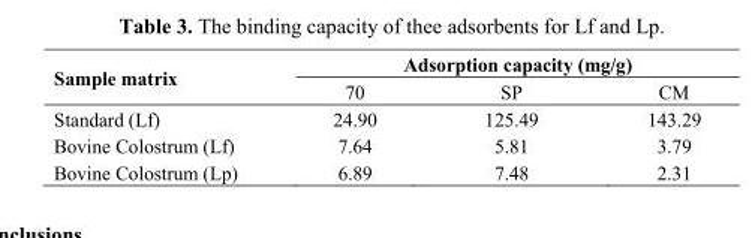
<table><thead><tr><td rowspan="2">Sample matrix</td><td colspan="3">Adsorption capacity (mg/g)</td></tr><tr><td>70</td><td>SP</td><td>CM</td></tr></thead><tbody><tr><td>Standard (Lf)</td><td>24.90</td><td>125.49</td><td>143.29</td></tr><tr><td>Bovine Colostrum (Lf)</td><td>7.64</td><td>5.81</td><td>3.79</td></tr><tr><td>Bovine Colostrum (Lp)</td><td>6.89</td><td>7.48</td><td>2.31</td></tr></tbody></table>